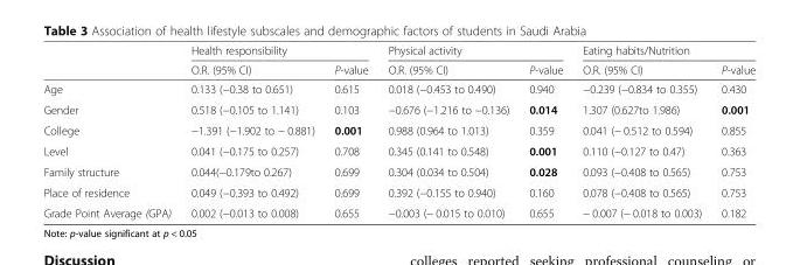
<table><thead><tr><td rowspan="2"></td><td colspan="2">Health responsibility</td><td colspan="2">Physical activity</td><td colspan="2">Eating habits/Nutrition</td></tr><tr><td>O.R. (95% CI)</td><td>P-value</td><td>O.R. (95% CI)</td><td>P-value</td><td>O.R. (95% CI)</td><td>P-value</td></tr></thead><tbody><tr><td>Age</td><td>0.133 (−0.38 to 0.651)</td><td>0.615</td><td>0.018 (−0.453 to 0.490)</td><td>0.940</td><td>−0.239 (−0.834 to 0.355)</td><td>0.430</td></tr><tr><td>Gender</td><td>0.518 (−0.105 to 1.141)</td><td>0.103</td><td>−0.676 (−1.216 to −0.136)</td><td>0.014</td><td>1.307 (0.627to 1.986)</td><td>0.001</td></tr><tr><td>College</td><td>−1.391 (−1.902 to − 0.881)</td><td>0.001</td><td>0.988 (0.964 to 1.013)</td><td>0.359</td><td>0.041 (− 0.512 to 0.594)</td><td>0.855</td></tr><tr><td>Level</td><td>0.041 (−0.175 to 0.257)</td><td>0.708</td><td>0.345 (0.141 to 0.548)</td><td>0.001</td><td>0.110 (−0.127 to 0.47)</td><td>0.363</td></tr><tr><td>Family structure</td><td>0.044(−0.179to 0.267)</td><td>0.699</td><td>0.304 (0.034 to 0.504)</td><td>0.028</td><td>0.093 (−0.408 to 0.565)</td><td>0.753</td></tr><tr><td>Place of residence</td><td>0.049 (−0.393 to 0.492)</td><td>0.699</td><td>0.392 (−0.155 to 0.940)</td><td>0.160</td><td>0.078 (−0.408 to 0.565)</td><td>0.753</td></tr><tr><td>Grade Point Average (GPA)</td><td>0.002 (−0.013 to 0.008)</td><td>0.655</td><td>−0.003 (− 0.015 to 0.010)</td><td>0.655</td><td>− 0.007 (− 0.018 to 0.003)</td><td>0.182</td></tr></tbody></table>